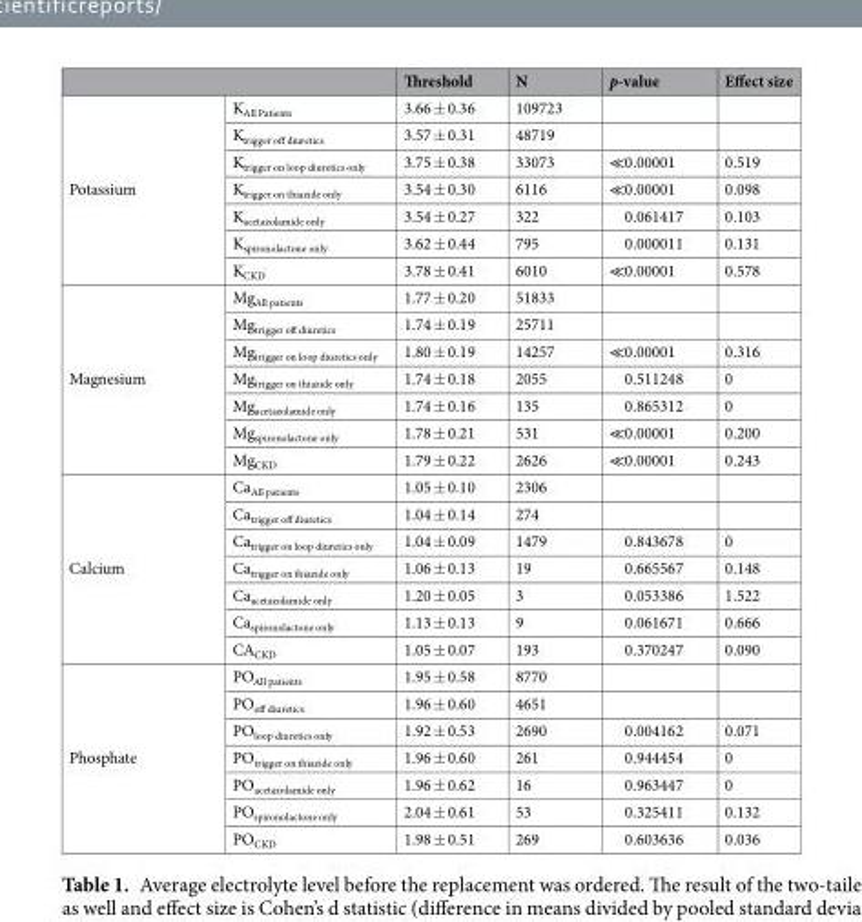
<table><thead><tr><td></td><td></td><td>Threshold</td><td>N</td><td>p-value</td><td>Effect size</td></tr></thead><tbody><tr><td rowspan="7">Potassium</td><td>K<sub>All Patients</sub></td><td>3.66 ± 0.36</td><td>109723</td><td></td><td></td></tr><tr><td>K<sub>trigger off diuretics</sub></td><td>3.57 ± 0.31</td><td>48719</td><td></td><td></td></tr><tr><td>K<sub>trigger on loop diuretics only</sub></td><td>3.75 ± 0.38</td><td>33073</td><td>≪0.00001</td><td>0.519</td></tr><tr><td>K<sub>trigger on thiazide only</sub></td><td>3.54 ± 0.30</td><td>6116</td><td>≪0.00001</td><td>0.098</td></tr><tr><td>K<sub>acetazolamide only</sub></td><td>3.54 ± 0.27</td><td>322</td><td>0.061417</td><td>0.103</td></tr><tr><td>K<sub>spironolactone only</sub></td><td>3.62 ± 0.44</td><td>795</td><td>0.000011</td><td>0.131</td></tr><tr><td>K<sub>CKD</sub></td><td>3.78 ± 0.41</td><td>6010</td><td>≪0.00001</td><td>0.578</td></tr><tr><td rowspan="7">Magnesium</td><td>Mg<sub>All patients</sub></td><td>1.77 ± 0.20</td><td>51833</td><td></td><td></td></tr><tr><td>Mg<sub>trigger off diuretics</sub></td><td>1.74 ± 0.19</td><td>25711</td><td></td><td></td></tr><tr><td>Mg<sub>trigger on loop diuretics only</sub></td><td>1.80 ± 0.19</td><td>14257</td><td>≪0.00001</td><td>0.316</td></tr><tr><td>Mg<sub>trigger on thiazide only</sub></td><td>1.74 ± 0.18</td><td>2055</td><td>0.511248</td><td>0</td></tr><tr><td>Mg<sub>acetazolamide only</sub></td><td>1.74 ± 0.16</td><td>135</td><td>0.865312</td><td>0</td></tr><tr><td>Mg<sub>spironolactone only</sub></td><td>1.78 ± 0.21</td><td>531</td><td>≪0.00001</td><td>0.200</td></tr><tr><td>Mg<sub>CKD</sub></td><td>1.79 ± 0.22</td><td>2626</td><td>≪0.00001</td><td>0.243</td></tr><tr><td rowspan="7">Calcium</td><td>Ca<sub>All patients</sub></td><td>1.05 ± 0.10</td><td>2306</td><td></td><td></td></tr><tr><td>Ca<sub>trigger off diuretics</sub></td><td>1.04 ± 0.14</td><td>274</td><td></td><td></td></tr><tr><td>Ca<sub>trigger on loop diuretics only</sub></td><td>1.04 ± 0.09</td><td>1479</td><td>0.843678</td><td>0</td></tr><tr><td>Ca<sub>trigger on thiazide only</sub></td><td>1.06 ± 0.13</td><td>19</td><td>0.665567</td><td>0.148</td></tr><tr><td>Ca<sub>acetazolamide only</sub></td><td>1.20 ± 0.05</td><td>3</td><td>0.053386</td><td>1.522</td></tr><tr><td>Ca<sub>spironolactone only</sub></td><td>1.13 ± 0.13</td><td>9</td><td>0.061671</td><td>0.666</td></tr><tr><td>CA<sub>CKD</sub></td><td>1.05 ± 0.07</td><td>193</td><td>0.370247</td><td>0.090</td></tr><tr><td rowspan="7">Phosphate</td><td>PO<sub>All patients</sub></td><td>1.95 ± 0.58</td><td>8770</td><td></td><td></td></tr><tr><td>PO<sub>off diuretics</sub></td><td>1.96 ± 0.60</td><td>4651</td><td></td><td></td></tr><tr><td>PO<sub>loop diuretics only</sub></td><td>1.92 ± 0.53</td><td>2690</td><td>0.004162</td><td>0.071</td></tr><tr><td>PO<sub>trigger on thiazide only</sub></td><td>1.96 ± 0.60</td><td>261</td><td>0.944454</td><td>0</td></tr><tr><td>PO<sub>acetazolamide only</sub></td><td>1.96 ± 0.62</td><td>16</td><td>0.963447</td><td>0</td></tr><tr><td>PO<sub>spironolactone only</sub></td><td>2.04 ± 0.61</td><td>53</td><td>0.325411</td><td>0.132</td></tr><tr><td>PO<sub>CKD</sub></td><td>1.98 ± 0.51</td><td>269</td><td>0.603636</td><td>0.036</td></tr></tbody></table>